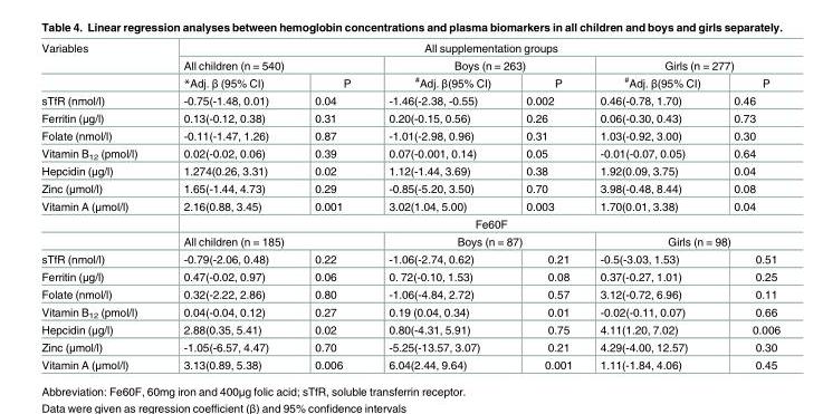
<table><tbody><tr><td rowspan="3">Variables</td><td colspan="6">All supplementation groups</td></tr><tr><td colspan="2">All children (n = 540)</td><td colspan="2">Boys (n = 263)</td><td colspan="2">Girls (n = 277)</td></tr><tr><td>*Adj. β (95% CI)</td><td>P</td><td><sup>#</sup>Adj. β(95% CI)</td><td>P</td><td><sup>#</sup>Adj. β(95% CI)</td><td>P</td></tr><tr><td>sTfR (nmol/l)</td><td>-0.75(-1.48, 0.01)</td><td>0.04</td><td>-1.46(-2.38, -0.55)</td><td>0.002</td><td>0.46(-0.78, 1.70)</td><td>0.46</td></tr><tr><td>Ferritin (μg/l)</td><td>0.13(-0.12, 0.38)</td><td>0.31</td><td>0.20(-0.15, 0.56)</td><td>0.26</td><td>0.06(-0.30, 0.43)</td><td>0.73</td></tr><tr><td>Folate (nmol/l)</td><td>-0.11(-1.47, 1.26)</td><td>0.87</td><td>-1.01(-2.98, 0.96)</td><td>0.31</td><td>1.03(-0.92, 3.00)</td><td>0.30</td></tr><tr><td>Vitamin B<sub>12</sub> (pmol/l)</td><td>0.02(-0.02, 0.06)</td><td>0.39</td><td>0.07(-0.001, 0.14)</td><td>0.05</td><td>-0.01(-0.07, 0.05)</td><td>0.64</td></tr><tr><td>Hepcidin (μg/l)</td><td>1.274(0.26, 3.31)</td><td>0.02</td><td>1.12(-1.44, 3.69)</td><td>0.38</td><td>1.92(0.09, 3.75)</td><td>0.04</td></tr><tr><td>Zinc (μmol/l)</td><td>1.65(-1.44, 4.73)</td><td>0.29</td><td>-0.85(-5.20, 3.50)</td><td>0.70</td><td>3.98(-0.48, 8.44)</td><td>0.08</td></tr><tr><td rowspan="3">Vitamin A (μmol/l)</td><td>2.16(0.88, 3.45)</td><td>0.001</td><td>3.02(1.04, 5.00)</td><td>0.003</td><td>1.70(0.01, 3.38)</td><td>0.04</td></tr><tr><td colspan="6">Fe60F</td></tr><tr><td colspan="2">All children (n = 185)</td><td colspan="2">Boys (n = 87)</td><td colspan="2">Girls (n = 98)</td></tr><tr><td>sTfR (nmol/l)</td><td>-0.79(-2.06, 0.48)</td><td>0.22</td><td>-1.06(-2.74, 0.62)</td><td>0.21</td><td>-0.5(-3.03, 1.53)</td><td>0.51</td></tr><tr><td>Ferritin (μg/l)</td><td>0.47(-0.02, 0.97)</td><td>0.06</td><td>0. 72(-0.10, 1.53)</td><td>0.08</td><td>0.37(-0.27, 1.01)</td><td>0.25</td></tr><tr><td>Folate (nmol/l)</td><td>0.32(-2.22, 2.86)</td><td>0.80</td><td>-1.06(-4.84, 2.72)</td><td>0.57</td><td>3.12(-0.72, 6.96)</td><td>0.11</td></tr><tr><td>Vitamin B<sub>12</sub> (pmol/l)</td><td>0.04(-0.04, 0.12)</td><td>0.27</td><td>0.19 (0.04, 0.34)</td><td>0.01</td><td>-0.02(-0.11, 0.07)</td><td>0.66</td></tr><tr><td>Hepcidin (μg/l)</td><td>2.88(0.35, 5.41)</td><td>0.02</td><td>0.80(-4.31, 5.91)</td><td>0.75</td><td>4.11(1.20, 7.02)</td><td>0.006</td></tr><tr><td>Zinc (μmol/l)</td><td>-1.05(-6.57, 4.47)</td><td>0.70</td><td>-5.25(-13.57, 3.07)</td><td>0.21</td><td>4.29(-4.00, 12.57)</td><td>0.30</td></tr><tr><td>Vitamin A (μmol/l)</td><td>3.13(0.89, 5.38)</td><td>0.006</td><td>6.04(2.44, 9.64)</td><td>0.001</td><td>1.11(-1.84, 4.06)</td><td>0.45</td></tr></tbody></table>